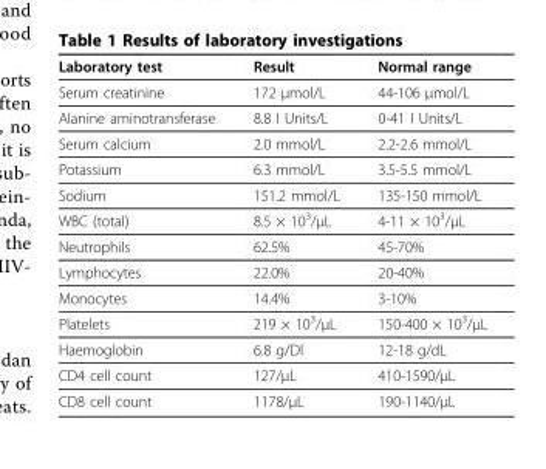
<table><thead><tr><td>Laboratory test</td><td>Result</td><td>Normal range</td></tr></thead><tbody><tr><td>Serum creatinine</td><td>172 μmol/L</td><td>44-106 μmol/L</td></tr><tr><td>Alanine aminotransferase</td><td>8.8 I Units/L</td><td>0-41 I Units/L</td></tr><tr><td>Serum calcium</td><td>2.0 mmol/L</td><td>2.2-2.6 mmol/L</td></tr><tr><td>Potassium</td><td>6.3 mmol/L</td><td>3.5-5.5 mmol/L</td></tr><tr><td>Sodium</td><td>151.2 mmol/L</td><td>135-150 mmol/L</td></tr><tr><td>WBC (total)</td><td>8.5 × 10<sup>3</sup>/μL</td><td>4-11 × 10<sup>3</sup>/μL</td></tr><tr><td>Neutrophils</td><td>62.5%</td><td>45-70%</td></tr><tr><td>Lymphocytes</td><td>22.0%</td><td>20-40%</td></tr><tr><td>Monocytes</td><td>14.4%</td><td>3-10%</td></tr><tr><td>Platelets</td><td>219 × 10<sup>3</sup>/μL</td><td>150-400 × 10<sup>3</sup>/μL</td></tr><tr><td>Haemoglobin</td><td>6.8 g/Dl</td><td>12-18 g/dL</td></tr><tr><td>CD4 cell count</td><td>127/μL</td><td>410-1590/μL</td></tr><tr><td>CD8 cell count</td><td>1178/μL</td><td>190-1140/μL</td></tr></tbody></table>